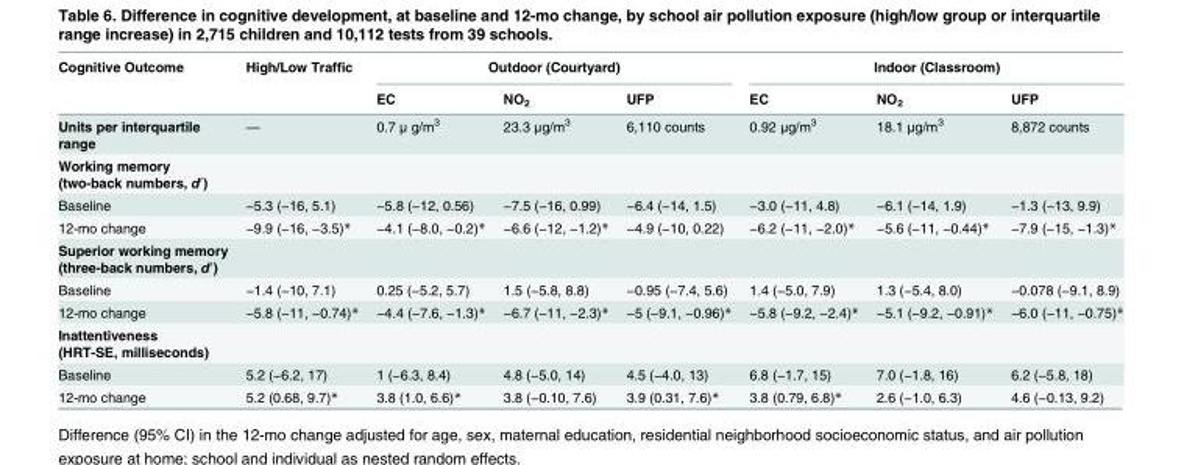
<table><thead><tr><td rowspan="2">Cognitive Outcome</td><td rowspan="2">High/Low Traffic</td><td colspan="3">Outdoor (Courtyard)</td><td colspan="3">Indoor (Classroom)</td></tr><tr><td>EC</td><td>NO<sub>2</sub></td><td>UFP</td><td>EC</td><td>NO<sub>2</sub></td><td>UFP</td></tr></thead><tbody><tr><td>Units per interquartile range</td><td>—</td><td>0.7 μ g/m<sup>3</sup></td><td>23.3 μg/m<sup>3</sup></td><td>6,110 counts</td><td>0.92 μg/m<sup>3</sup></td><td>18.1 μg/m<sup>3</sup></td><td>8,872 counts</td></tr><tr><td colspan="8">Working memory (two-back numbers, d′)</td></tr><tr><td>Baseline</td><td>−5.3 (−16, 5.1)</td><td>−5.8 (−12, 0.56)</td><td>−7.5 (−16, 0.99)</td><td>−6.4 (−14, 1.5)</td><td>−3.0 (−11, 4.8)</td><td>−6.1 (−14, 1.9)</td><td>−1.3 (−13, 9.9)</td></tr><tr><td>12-mo change</td><td>−9.9 (−16, −3.5)*</td><td>−4.1 (−8.0, −0.2)*</td><td>−6.6 (−12, −1.2)*</td><td>−4.9 (−10, 0.22)</td><td>−6.2 (−11, −2.0)*</td><td>−5.6 (−11, −0.44)*</td><td>−7.9 (−15, −1.3)*</td></tr><tr><td colspan="8">Superior working memory (three-back numbers, d′)</td></tr><tr><td>Baseline</td><td>−1.4 (−10, 7.1)</td><td>0.25 (−5.2, 5.7)</td><td>1.5 (−5.8, 8.8)</td><td>−0.95 (−7.4, 5.6)</td><td>1.4 (−5.0, 7.9)</td><td>1.3 (−5.4, 8.0)</td><td>−0.078 (−9.1, 8.9)</td></tr><tr><td>12-mo change</td><td>−5.8 (−11, −0.74)*</td><td>−4.4 (−7.6, −1.3)*</td><td>−6.7 (−11, −2.3)*</td><td>−5 (−9.1, −0.96)*</td><td>−5.8 (−9.2, −2.4)*</td><td>−5.1 (−9.2, −0.91)*</td><td>−6.0 (−11, −0.75)*</td></tr><tr><td colspan="8">Inattentiveness (HRT-SE, milliseconds)</td></tr><tr><td>Baseline</td><td>5.2 (−6.2, 17)</td><td>1 (−6.3, 8.4)</td><td>4.8 (−5.0, 14)</td><td>4.5 (−4.0, 13)</td><td>6.8 (−1.7, 15)</td><td>7.0 (−1.8, 16)</td><td>6.2 (−5.8, 18)</td></tr><tr><td>12-mo change</td><td>5.2 (0.68, 9.7)*</td><td>3.8 (1.0, 6.6)*</td><td>3.8 (−0.10, 7.6)</td><td>3.9 (0.31, 7.6)*</td><td>3.8 (0.79, 6.8)*</td><td>2.6 (−1.0, 6.3)</td><td>4.6 (−0.13, 9.2)</td></tr></tbody></table>